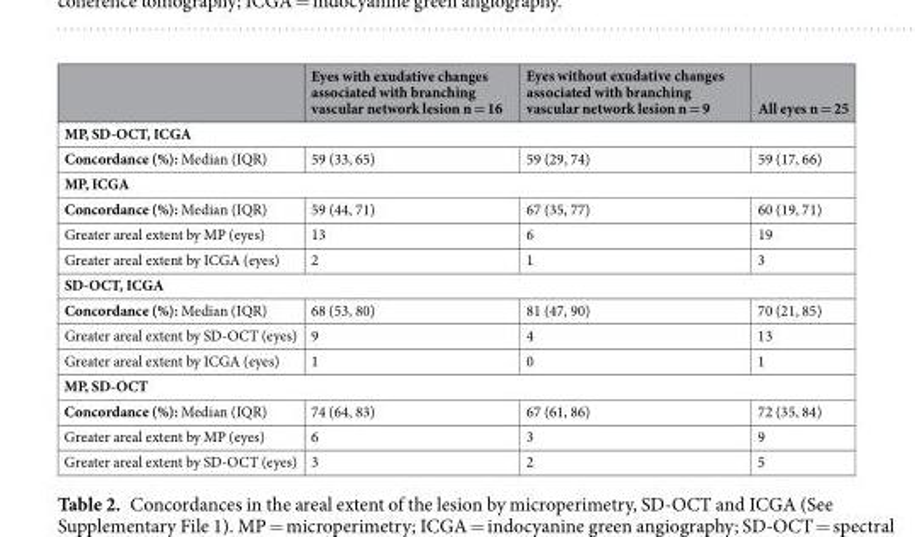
<table><thead><tr><td></td><td>Eyes with exudative changes associated with branching vascular network lesion n = 16</td><td>Eyes without exudative changes associated with branching vascular network lesion n = 9</td><td>All eyes n = 25</td></tr></thead><tbody><tr><td colspan="4">MP, SD-OCT, ICGA</td></tr><tr><td>Concordance (%): Median (IQR)</td><td>59 (33, 65)</td><td>59 (29, 74)</td><td>59 (17, 66)</td></tr><tr><td colspan="4">MP, ICGA</td></tr><tr><td>Concordance (%): Median (IQR)</td><td>59 (44, 71)</td><td>67 (35, 77)</td><td>60 (19, 71)</td></tr><tr><td>Greater areal extent by MP (eyes)</td><td>13</td><td>6</td><td>19</td></tr><tr><td>Greater areal extent by ICGA (eyes)</td><td>2</td><td>1</td><td>3</td></tr><tr><td colspan="4">SD-OCT, ICGA</td></tr><tr><td>Concordance (%): Median (IQR)</td><td>68 (53, 80)</td><td>81 (47, 90)</td><td>70 (21, 85)</td></tr><tr><td>Greater areal extent by SD-OCT (eyes)</td><td>9</td><td>4</td><td>13</td></tr><tr><td>Greater areal extent by ICGA (eyes)</td><td>1</td><td>0</td><td>1</td></tr><tr><td colspan="4">MP, SD-OCT</td></tr><tr><td>Concordance (%): Median (IQR)</td><td>74 (64, 83)</td><td>67 (61, 86)</td><td>72 (35, 84)</td></tr><tr><td>Greater areal extent by MP (eyes)</td><td>6</td><td>3</td><td>9</td></tr><tr><td>Greater areal extent by SD-OCT (eyes)</td><td>3</td><td>2</td><td>5</td></tr></tbody></table>